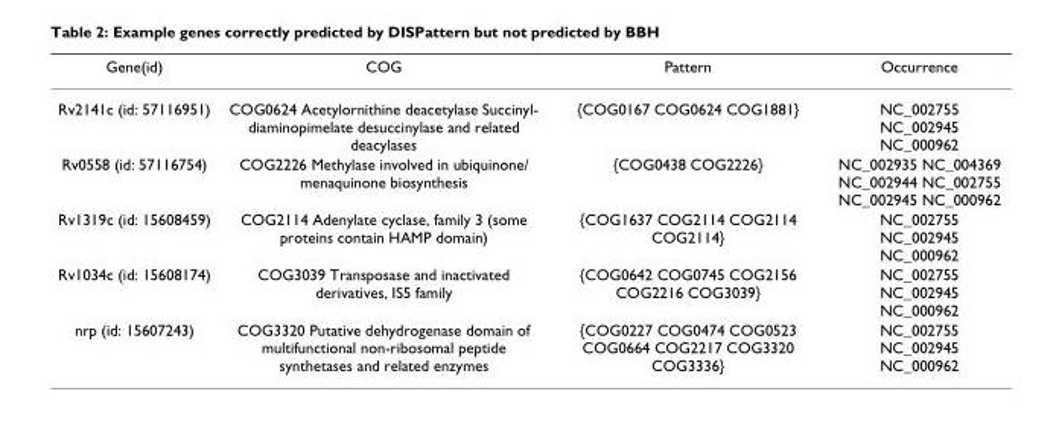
<table><thead><tr><td>Gene(id)</td><td>COG</td><td>Pattern</td><td>Occurrence</td></tr></thead><tbody><tr><td>Rv2141c (id: 57116951)</td><td>COG0624 Acetylornithine deacetylase Succinyl- diaminopimelate desuccinylase and related deacylases</td><td>{COG0167 COG0624 COG1881}</td><td>NC_002755 NC_002945 NC_000962</td></tr><tr><td>Rv0558 (id: 57116754)</td><td>COG2226 Methylase involved in ubiquinone/ menaquinone biosynthesis</td><td>{COG0438 COG2226}</td><td>NC_002935 NC_004369 NC_002944 NC_002755 NC_002945 NC_000962</td></tr><tr><td>Rv1319c (id: 15608459)</td><td>COG2114 Adenylate cyclase, family 3 (some proteins contain HAMP domain)</td><td>{COG1637 COG2114 COG2114 COG2114}</td><td>NC_002755 NC_002945 NC_000962</td></tr><tr><td>Rv1034c (id: 15608174)</td><td>COG3039 Transposase and inactivated derivatives, IS5 family</td><td>{COG0642 COG0745 COG2156 COG2216 COG3039}</td><td>NC_002755 NC_002945 NC_000962</td></tr><tr><td>nrp (id: 15607243)</td><td>COG3320 Putative dehydrogenase domain of multifunctional non-ribosomal peptide synthetases and related enzymes</td><td>{COG0227 COG0474 COG0523 COG0664 COG2217 COG3320 COG3336}</td><td>NC_002755 NC_002945 NC_000962</td></tr></tbody></table>